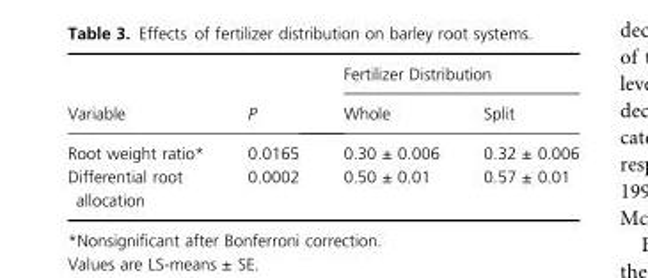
<table><thead><tr><td rowspan="2">Variable</td><td rowspan="2">P</td><td colspan="2">Fertilizer Distribution</td></tr><tr><td>Whole</td><td>Split</td></tr></thead><tbody><tr><td>Root weight ratio*</td><td>0.0165</td><td>0.30 ± 0.006</td><td>0.32 ± 0.006</td></tr><tr><td>Differential root allocation</td><td>0.0002</td><td>0.50 ± 0.01</td><td>0.57 ± 0.01</td></tr></tbody></table>